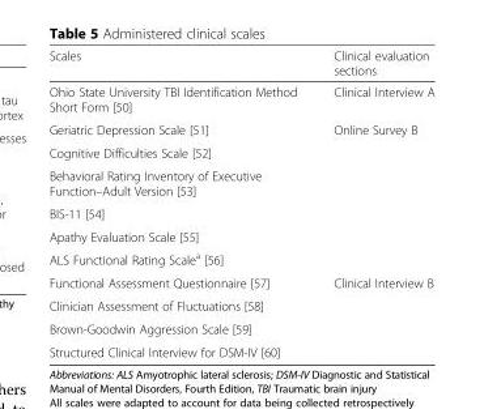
<table><thead><tr><td>Scales</td><td>Clinical evaluation sections</td></tr></thead><tbody><tr><td>Ohio State University TBI Identification Method Short Form [50]</td><td>Clinical Interview A</td></tr><tr><td>Geriatric Depression Scale [51]</td><td rowspan="6">Online Survey B</td></tr><tr><td>Cognitive Difficulties Scale [52]</td></tr><tr><td>Behavioral Rating Inventory of Executive Function–Adult Version [53]</td></tr><tr><td>BIS-11 [54]</td></tr><tr><td>Apathy Evaluation Scale [55]</td></tr><tr><td>ALS Functional Rating Scale<sup>a</sup> [56]</td></tr><tr><td>Functional Assessment Questionnaire [57]</td><td rowspan="4">Clinical Interview B</td></tr><tr><td>Clinician Assessment of Fluctuations [58]</td></tr><tr><td>Brown-Goodwin Aggression Scale [59]</td></tr><tr><td>Structured Clinical Interview for DSM-IV [60]</td></tr></tbody></table>